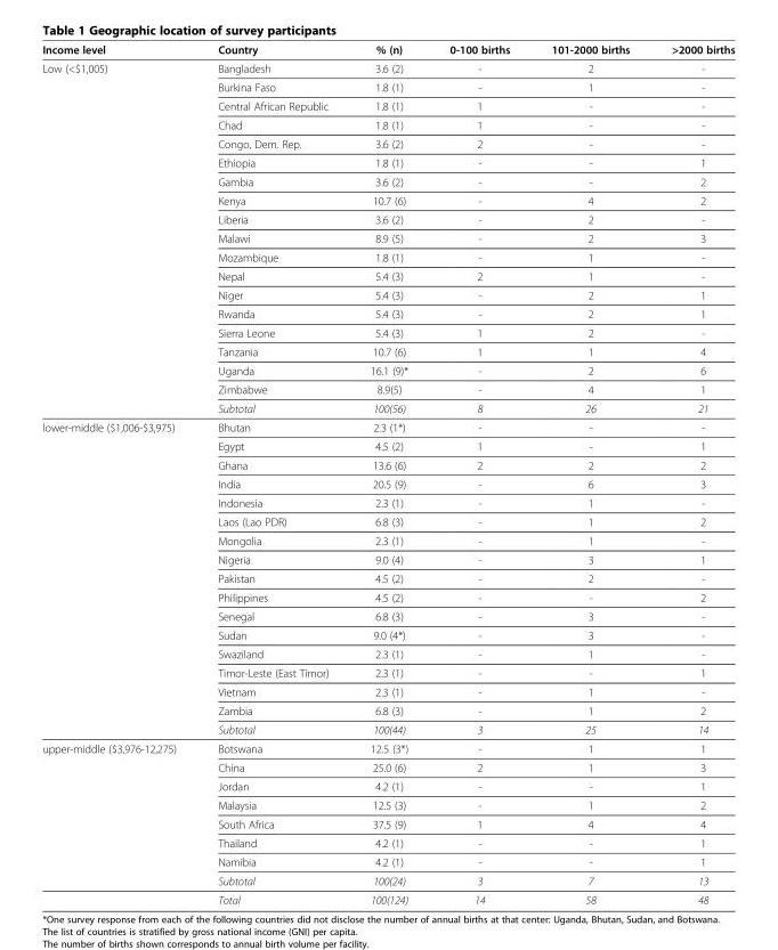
<table><thead><tr><td>Income level</td><td>Country</td><td>% (n)</td><td>0-100 births</td><td>101-2000 births</td><td>&gt;2000 births</td></tr></thead><tbody><tr><td rowspan="19">Low (&lt;$1,005)</td><td>Bangladesh</td><td>3.6 (2)</td><td>-</td><td>2</td><td>-</td></tr><tr><td>Burkina Faso</td><td>1.8 (1)</td><td>-</td><td>1</td><td>-</td></tr><tr><td>Central African Republic</td><td>1.8 (1)</td><td>1</td><td>-</td><td>-</td></tr><tr><td>Chad</td><td>1.8 (1)</td><td>1</td><td>-</td><td>-</td></tr><tr><td>Congo, Dem. Rep.</td><td>3.6 (2)</td><td>2</td><td>-</td><td>-</td></tr><tr><td>Ethiopia</td><td>1.8 (1)</td><td>-</td><td>-</td><td>1</td></tr><tr><td>Gambia</td><td>3.6 (2)</td><td>-</td><td>-</td><td>2</td></tr><tr><td>Kenya</td><td>10.7 (6)</td><td>-</td><td>4</td><td>2</td></tr><tr><td>Liberia</td><td>3.6 (2)</td><td>-</td><td>2</td><td>-</td></tr><tr><td>Malawi</td><td>8.9 (5)</td><td>-</td><td>2</td><td>3</td></tr><tr><td>Mozambique</td><td>1.8 (1)</td><td>-</td><td>1</td><td>-</td></tr><tr><td>Nepal</td><td>5.4 (3)</td><td>2</td><td>1</td><td>-</td></tr><tr><td>Niger</td><td>5.4 (3)</td><td>-</td><td>2</td><td>1</td></tr><tr><td>Rwanda</td><td>5.4 (3)</td><td>-</td><td>2</td><td>1</td></tr><tr><td>Sierra Leone</td><td>5.4 (3)</td><td>1</td><td>2</td><td>-</td></tr><tr><td>Tanzania</td><td>10.7 (6)</td><td>1</td><td>1</td><td>4</td></tr><tr><td>Uganda</td><td>16.1 (9)*</td><td>-</td><td>2</td><td>6</td></tr><tr><td>Zimbabwe</td><td>8.9(5)</td><td>-</td><td>4</td><td>1</td></tr><tr><td>Subtotal</td><td>100(56)</td><td>8</td><td>26</td><td>21</td></tr><tr><td rowspan="17">lower-middle ($1,006-$3,975)</td><td>Bhutan</td><td>2.3 (1*)</td><td>-</td><td>-</td><td>-</td></tr><tr><td>Egypt</td><td>4.5 (2)</td><td>1</td><td>-</td><td>1</td></tr><tr><td>Ghana</td><td>13.6 (6)</td><td>2</td><td>2</td><td>2</td></tr><tr><td>India</td><td>20.5 (9)</td><td>-</td><td>6</td><td>3</td></tr><tr><td>Indonesia</td><td>2.3 (1)</td><td>-</td><td>1</td><td>-</td></tr><tr><td>Laos (Lao PDR)</td><td>6.8 (3)</td><td>-</td><td>1</td><td>2</td></tr><tr><td>Mongolia</td><td>2.3 (1)</td><td>-</td><td>1</td><td>-</td></tr><tr><td>Nigeria</td><td>9.0 (4)</td><td>-</td><td>3</td><td>1</td></tr><tr><td>Pakistan</td><td>4.5 (2)</td><td>-</td><td>2</td><td>-</td></tr><tr><td>Philippines</td><td>4.5 (2)</td><td>-</td><td>-</td><td>2</td></tr><tr><td>Senegal</td><td>6.8 (3)</td><td>-</td><td>3</td><td>-</td></tr><tr><td>Sudan</td><td>9.0 (4*)</td><td>-</td><td>3</td><td>-</td></tr><tr><td>Swaziland</td><td>2.3 (1)</td><td>-</td><td>1</td><td>-</td></tr><tr><td>Timor-Leste (East Timor)</td><td>2.3 (1)</td><td>-</td><td>-</td><td>1</td></tr><tr><td>Vietnam</td><td>2.3 (1)</td><td>-</td><td>1</td><td>-</td></tr><tr><td>Zambia</td><td>6.8 (3)</td><td>-</td><td>1</td><td>2</td></tr><tr><td>Subtotal</td><td>100(44)</td><td>3</td><td>25</td><td>14</td></tr><tr><td rowspan="9">upper-middle ($3,976-12,275)</td><td>Botswana</td><td>12.5 (3*)</td><td>-</td><td>1</td><td>1</td></tr><tr><td>China</td><td>25.0 (6)</td><td>2</td><td>1</td><td>3</td></tr><tr><td>Jordan</td><td>4.2 (1)</td><td>-</td><td>-</td><td>1</td></tr><tr><td>Malaysia</td><td>12.5 (3)</td><td>-</td><td>1</td><td>2</td></tr><tr><td>South Africa</td><td>37.5 (9)</td><td>1</td><td>4</td><td>4</td></tr><tr><td>Thailand</td><td>4.2 (1)</td><td>-</td><td>-</td><td>1</td></tr><tr><td>Namibia</td><td>4.2 (1)</td><td>-</td><td>-</td><td>1</td></tr><tr><td>Subtotal</td><td>100(24)</td><td>3</td><td>7</td><td>13</td></tr><tr><td>Total</td><td>100(124)</td><td>14</td><td>58</td><td>48</td></tr></tbody></table>